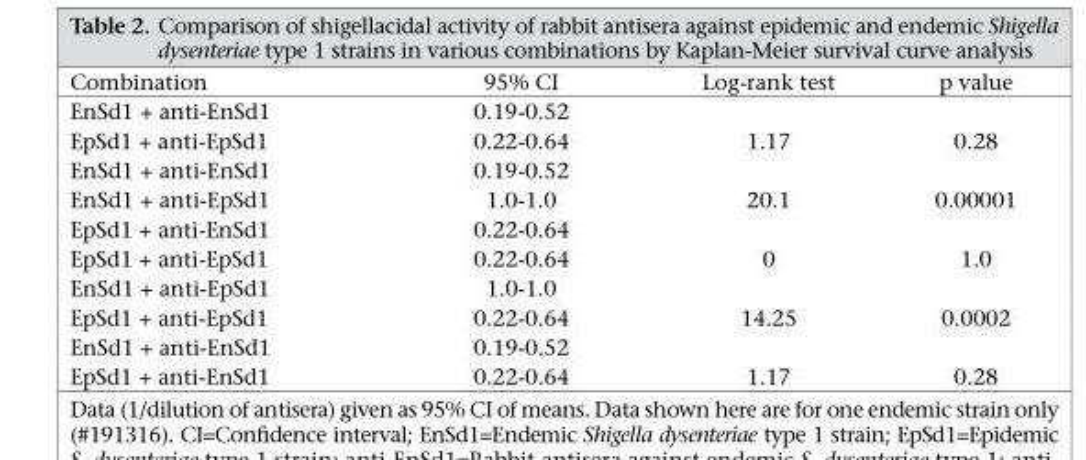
<table><thead><tr><td>Combination</td><td>95% CI</td><td>Log-rank test</td><td>p value</td></tr></thead><tbody><tr><td>EnSd1 + anti-EnSd1</td><td>0.19-0.52</td><td></td><td></td></tr><tr><td>EpSd1 + anti-EpSd1</td><td>0.22-0.64</td><td>1.17</td><td>0.28</td></tr><tr><td>EnSd1 + anti-EnSd1</td><td>0.19-0.52</td><td></td><td></td></tr><tr><td>EnSd1 + anti-EpSd1</td><td>1.0-1.0</td><td>20.1</td><td>0.00001</td></tr><tr><td>EpSd1 + anti-EnSd1</td><td>0.22-0.64</td><td></td><td></td></tr><tr><td>EpSd1 + anti-EpSd1</td><td>0.22-0.64</td><td>0</td><td>1.0</td></tr><tr><td>EnSd1 + anti-EpSd1</td><td>1.0-1.0</td><td></td><td></td></tr><tr><td>EpSd1 + anti-EpSd1</td><td>0.22-0.64</td><td>14.25</td><td>0.0002</td></tr><tr><td>EnSd1 + anti-EnSd1</td><td>0.19-0.52</td><td></td><td></td></tr><tr><td>EpSd1 + anti-EnSd1</td><td>0.22-0.64</td><td>1.17</td><td>0.28</td></tr></tbody></table>